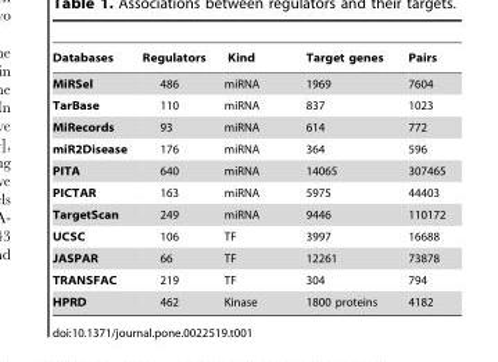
<table><thead><tr><td>Databases</td><td>Regulators</td><td>Kind</td><td>Target genes</td><td>Pairs</td></tr></thead><tbody><tr><td>MiRSel</td><td>486</td><td>miRNA</td><td>1969</td><td>7604</td></tr><tr><td>TarBase</td><td>110</td><td>miRNA</td><td>837</td><td>1023</td></tr><tr><td>MiRecords</td><td>93</td><td>miRNA</td><td>614</td><td>772</td></tr><tr><td>miR2Disease</td><td>176</td><td>miRNA</td><td>364</td><td>596</td></tr><tr><td>PITA</td><td>640</td><td>miRNA</td><td>14065</td><td>307465</td></tr><tr><td>PICTAR</td><td>163</td><td>miRNA</td><td>5975</td><td>44403</td></tr><tr><td>TargetScan</td><td>249</td><td>miRNA</td><td>9446</td><td>110172</td></tr><tr><td>UCSC</td><td>106</td><td>TF</td><td>3997</td><td>16688</td></tr><tr><td>JASPAR</td><td>66</td><td>TF</td><td>12261</td><td>73878</td></tr><tr><td>TRANSFAC</td><td>219</td><td>TF</td><td>304</td><td>794</td></tr><tr><td>HPRD</td><td>462</td><td>Kinase</td><td>1800 proteins</td><td>4182</td></tr></tbody></table>